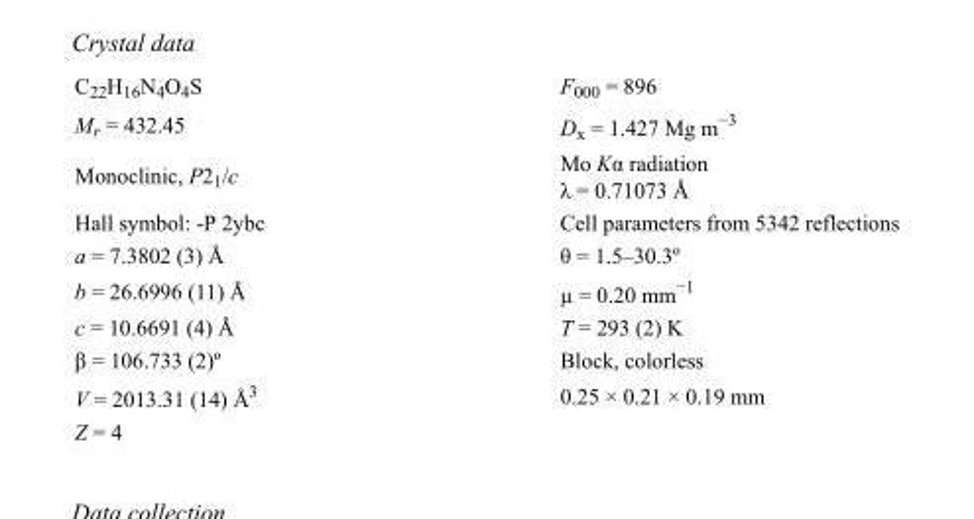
<table><tbody><tr><td>C<sub>22</sub>H<sub>16</sub>N<sub>4</sub>O<sub>4</sub>S</td><td>F000 = 896</td></tr><tr><td>M<sub>r</sub> = 432.45</td><td>D<sub>x</sub> = 1.427 Mg m<sup>−3</sup></td></tr><tr><td>Monoclinic, P2<sub>1</sub>/c</td><td>Mo Kα radiation λ = 0.71073 Å</td></tr><tr><td>Hall symbol: -P 2ybc</td><td>Cell parameters from 5342 reflections</td></tr><tr><td>a = 7.3802 (3) Å</td><td>θ = 1.5–30.3º</td></tr><tr><td>b = 26.6996 (11) Å</td><td>µ = 0.20 mm<sup>−1</sup></td></tr><tr><td>c = 10.6691 (4) Å</td><td>T = 293 (2) K</td></tr><tr><td>β = 106.733 (2)º</td><td>Block, colorless</td></tr><tr><td>V = 2013.31 (14) Å<sup>3</sup></td><td>0.25 × 0.21 × 0.19 mm</td></tr><tr><td>Z = 4</td><td></td></tr></tbody></table>